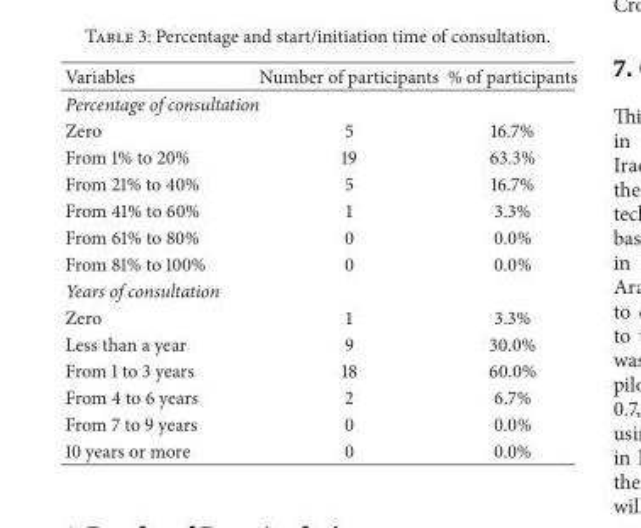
<table><thead><tr><td>Variables</td><td>Number of participants</td><td>% of participants</td></tr></thead><tbody><tr><td colspan="3">Percentage of consultation</td></tr><tr><td>Zero</td><td>5</td><td>16.7%</td></tr><tr><td>From 1% to 20%</td><td>19</td><td>63.3%</td></tr><tr><td>From 21% to 40%</td><td>5</td><td>16.7%</td></tr><tr><td>From 41% to 60%</td><td>1</td><td>3.3%</td></tr><tr><td>From 61% to 80%</td><td>0</td><td>0.0%</td></tr><tr><td>From 81% to 100%</td><td>0</td><td>0.0%</td></tr><tr><td colspan="3">Years of consultation</td></tr><tr><td>Zero</td><td>1</td><td>3.3%</td></tr><tr><td>Less than a year</td><td>9</td><td>30.0%</td></tr><tr><td>From 1 to 3 years</td><td>18</td><td>60.0%</td></tr><tr><td>From 4 to 6 years</td><td>2</td><td>6.7%</td></tr><tr><td>From 7 to 9 years</td><td>0</td><td>0.0%</td></tr><tr><td>10 years or more</td><td>0</td><td>0.0%</td></tr></tbody></table>